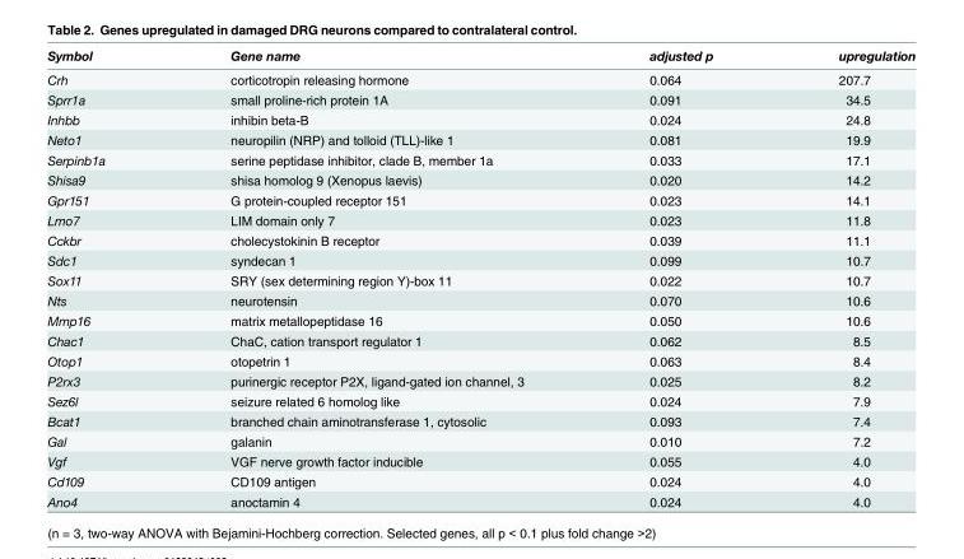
<table><thead><tr><td>Symbol</td><td>Gene name</td><td>adjusted p</td><td>upregulation</td></tr></thead><tbody><tr><td>Crh</td><td>corticotropin releasing hormone</td><td>0.064</td><td>207.7</td></tr><tr><td>Sprr1a</td><td>small proline-rich protein 1A</td><td>0.091</td><td>34.5</td></tr><tr><td>Inhbb</td><td>inhibin beta-B</td><td>0.024</td><td>24.8</td></tr><tr><td>Neto1</td><td>neuropilin (NRP) and tolloid (TLL)-like 1</td><td>0.081</td><td>19.9</td></tr><tr><td>Serpinb1a</td><td>serine peptidase inhibitor, clade B, member 1a</td><td>0.033</td><td>17.1</td></tr><tr><td>Shisa9</td><td>shisa homolog 9 (Xenopus laevis)</td><td>0.020</td><td>14.2</td></tr><tr><td>Gpr151</td><td>G protein-coupled receptor 151</td><td>0.023</td><td>14.1</td></tr><tr><td>Lmo7</td><td>LIM domain only 7</td><td>0.023</td><td>11.8</td></tr><tr><td>Cckbr</td><td>cholecystokinin B receptor</td><td>0.039</td><td>11.1</td></tr><tr><td>Sdc1</td><td>syndecan 1</td><td>0.099</td><td>10.7</td></tr><tr><td>Sox11</td><td>SRY (sex determining region Y)-box 11</td><td>0.022</td><td>10.7</td></tr><tr><td>Nts</td><td>neurotensin</td><td>0.070</td><td>10.6</td></tr><tr><td>Mmp16</td><td>matrix metallopeptidase 16</td><td>0.050</td><td>10.6</td></tr><tr><td>Chac1</td><td>ChaC, cation transport regulator 1</td><td>0.062</td><td>8.5</td></tr><tr><td>Otop1</td><td>otopetrin 1</td><td>0.063</td><td>8.4</td></tr><tr><td>P2rx3</td><td>purinergic receptor P2X, ligand-gated ion channel, 3</td><td>0.025</td><td>8.2</td></tr><tr><td>Sez6l</td><td>seizure related 6 homolog like</td><td>0.024</td><td>7.9</td></tr><tr><td>Bcat1</td><td>branched chain aminotransferase 1, cytosolic</td><td>0.093</td><td>7.4</td></tr><tr><td>Gal</td><td>galanin</td><td>0.010</td><td>7.2</td></tr><tr><td>Vgf</td><td>VGF nerve growth factor inducible</td><td>0.055</td><td>4.0</td></tr><tr><td>Cd109</td><td>CD109 antigen</td><td>0.024</td><td>4.0</td></tr><tr><td>Ano4</td><td>anoctamin 4</td><td>0.024</td><td>4.0</td></tr></tbody></table>